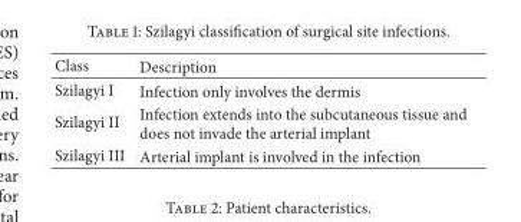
<table><thead><tr><td>Class</td><td>Description</td></tr></thead><tbody><tr><td>Szilagyi I</td><td>Infection only involves the dermis</td></tr><tr><td>Szilagyi II</td><td>Infection extends into the subcutaneous tissue and does not invade the arterial implant</td></tr><tr><td>Szilagyi III</td><td>Arterial implant is involved in the infection</td></tr></tbody></table>